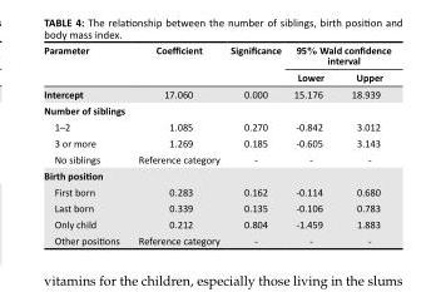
<table><thead><tr><td rowspan="2">Parameter</td><td rowspan="2">Coefficient</td><td rowspan="2">Significance</td><td colspan="2">95% Wald confidence interval</td></tr><tr><td>Lower</td><td>Upper</td></tr></thead><tbody><tr><td>Intercept</td><td>17.060</td><td>0.000</td><td>15.176</td><td>18.939</td></tr><tr><td colspan="5">Number of siblings</td></tr><tr><td>1–2</td><td>1.085</td><td>0.270</td><td>-0.842</td><td>3.012</td></tr><tr><td>3 or more</td><td>1.269</td><td>0.185</td><td>-0.605</td><td>3.143</td></tr><tr><td>No siblings</td><td>Reference category</td><td>-</td><td>-</td><td>-</td></tr><tr><td colspan="5">Birth position</td></tr><tr><td>First born</td><td>0.283</td><td>0.162</td><td>-0.114</td><td>0.680</td></tr><tr><td>Last born</td><td>0.339</td><td>0.135</td><td>-0.106</td><td>0.783</td></tr><tr><td>Only child</td><td>0.212</td><td>0.804</td><td>-1.459</td><td>1.883</td></tr><tr><td>Other positions</td><td>Reference category</td><td>-</td><td>-</td><td>-</td></tr></tbody></table>